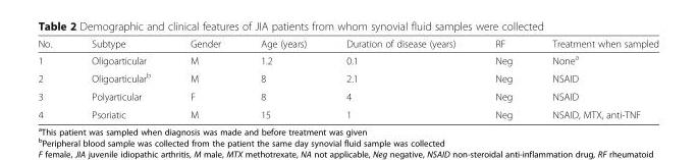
<table><thead><tr><td>No.</td><td>Subtype</td><td>Gender</td><td>Age (years)</td><td>Duration of disease (years)</td><td>RF</td><td>Treatment when sampled</td></tr></thead><tbody><tr><td>1</td><td>Oligoarticular</td><td>M</td><td>1.2</td><td>0.1</td><td>Neg</td><td>None<sup>a</sup></td></tr><tr><td>2</td><td>Oligoarticular<sup>b</sup></td><td>M</td><td>8</td><td>2.1</td><td>Neg</td><td>NSAID</td></tr><tr><td>3</td><td>Polyarticular</td><td>F</td><td>8</td><td>4</td><td>Neg</td><td>NSAID</td></tr><tr><td>4</td><td>Psoriatic</td><td>M</td><td>15</td><td>1</td><td>Neg</td><td>NSAID, MTX, anti-TNF</td></tr></tbody></table>